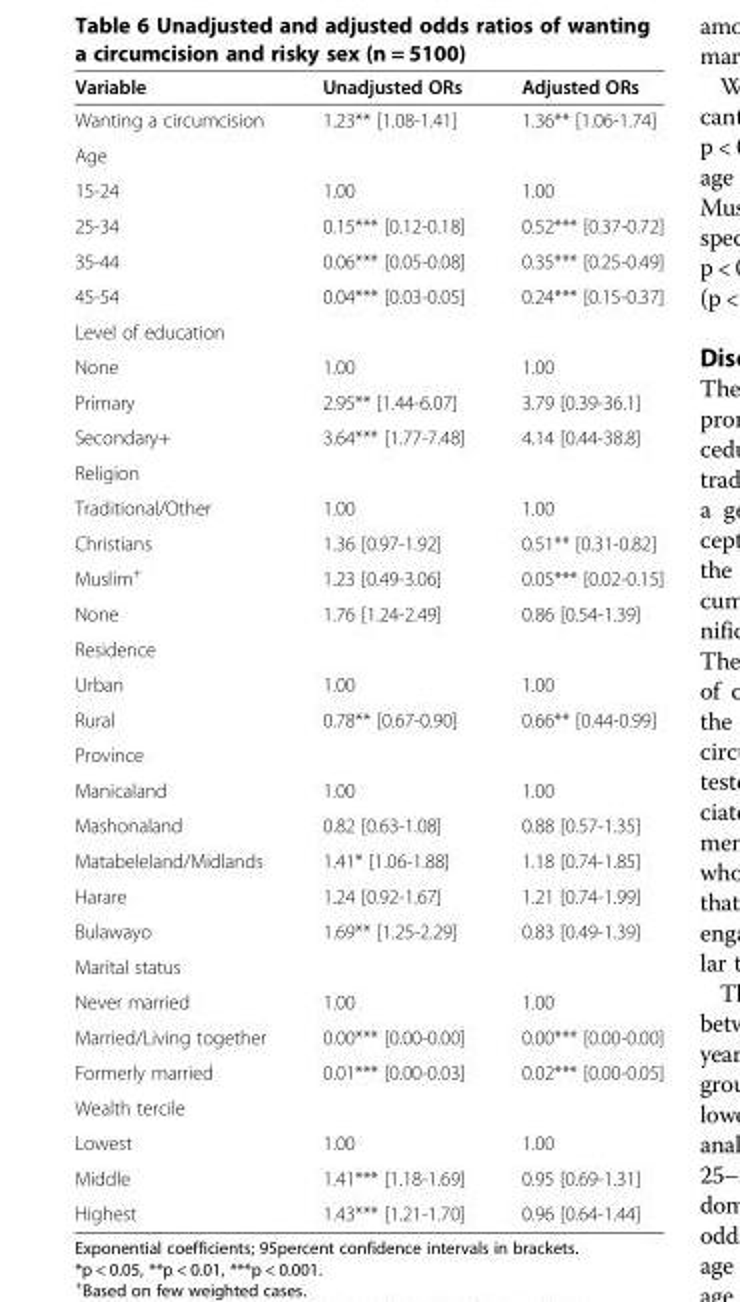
<table><thead><tr><td>Variable</td><td>Unadjusted ORs</td><td>Adjusted ORs</td></tr></thead><tbody><tr><td>Wanting a circumcision</td><td>1.23** [1.08-1.41]</td><td>1.36** [1.06-1.74]</td></tr><tr><td colspan="3">Age</td></tr><tr><td>15-24</td><td>1.00</td><td>1.00</td></tr><tr><td>25-34</td><td>0.15*** [0.12-0.18]</td><td>0.52*** [0.37-0.72]</td></tr><tr><td>35-44</td><td>0.06*** [0.05-0.08]</td><td>0.35*** [0.25-0.49]</td></tr><tr><td>45-54</td><td>0.04*** [0.03-0.05]</td><td>0.24*** [0.15-0.37]</td></tr><tr><td colspan="3">Level of education</td></tr><tr><td>None</td><td>1.00</td><td>1.00</td></tr><tr><td>Primary</td><td>2.95** [1.44-6.07]</td><td>3.79 [0.39-36.1]</td></tr><tr><td>Secondary+</td><td>3.64*** [1.77-7.48]</td><td>4.14 [0.44-38.8]</td></tr><tr><td colspan="3">Religion</td></tr><tr><td>Traditional/Other</td><td>1.00</td><td>1.00</td></tr><tr><td>Christians</td><td>1.36 [0.97-1.92]</td><td>0.51** [0.31-0.82]</td></tr><tr><td>Muslim<sup>+</sup></td><td>1.23 [0.49-3.06]</td><td>0.05*** [0.02-0.15]</td></tr><tr><td>None</td><td>1.76 [1.24-2.49]</td><td>0.86 [0.54-1.39]</td></tr><tr><td colspan="3">Residence</td></tr><tr><td>Urban</td><td>1.00</td><td>1.00</td></tr><tr><td>Rural</td><td>0.78** [0.67-0.90]</td><td>0.66** [0.44-0.99]</td></tr><tr><td colspan="3">Province</td></tr><tr><td>Manicaland</td><td>1.00</td><td>1.00</td></tr><tr><td>Mashonaland</td><td>0.82 [0.63-1.08]</td><td>0.88 [0.57-1.35]</td></tr><tr><td>Matabeleland/Midlands</td><td>1.41* [1.06-1.88]</td><td>1.18 [0.74-1.85]</td></tr><tr><td>Harare</td><td>1.24 [0.92-1.67]</td><td>1.21 [0.74-1.99]</td></tr><tr><td>Bulawayo</td><td>1.69** [1.25-2.29]</td><td>0.83 [0.49-1.39]</td></tr><tr><td colspan="3">Marital status</td></tr><tr><td>Never married</td><td>1.00</td><td>1.00</td></tr><tr><td>Married/Living together</td><td>0.00*** [0.00-0.00]</td><td>0.00*** [0.00-0.00]</td></tr><tr><td>Formerly married</td><td>0.01*** [0.00-0.03]</td><td>0.02*** [0.00-0.05]</td></tr><tr><td colspan="3">Wealth tercile</td></tr><tr><td>Lowest</td><td>1.00</td><td>1.00</td></tr><tr><td>Middle</td><td>1.41*** [1.18-1.69]</td><td>0.95 [0.69-1.31]</td></tr><tr><td>Highest</td><td>1.43*** [1.21-1.70]</td><td>0.96 [0.64-1.44]</td></tr></tbody></table>